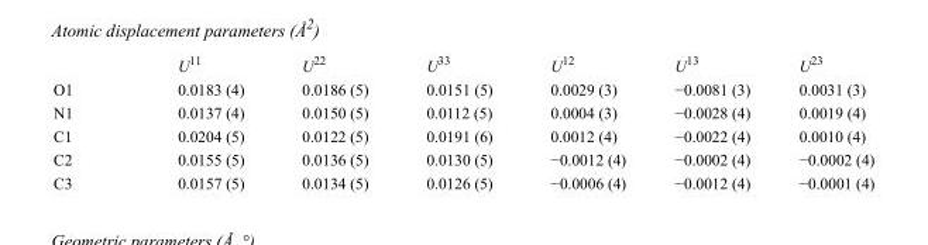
<table><thead><tr><td></td><td>U<sup>11</sup></td><td>U<sup>22</sup></td><td>U<sup>33</sup></td><td>U<sup>12</sup></td><td>U<sup>13</sup></td><td>U<sup>23</sup></td></tr></thead><tbody><tr><td>O1</td><td>0.0183 (4)</td><td>0.0186 (5)</td><td>0.0151 (5)</td><td>0.0029 (3)</td><td>−0.0081 (3)</td><td>0.0031 (3)</td></tr><tr><td>N1</td><td>0.0137 (4)</td><td>0.0150 (5)</td><td>0.0112 (5)</td><td>0.0004 (3)</td><td>−0.0028 (4)</td><td>0.0019 (4)</td></tr><tr><td>C1</td><td>0.0204 (5)</td><td>0.0122 (5)</td><td>0.0191 (6)</td><td>0.0012 (4)</td><td>−0.0022 (4)</td><td>0.0010 (4)</td></tr><tr><td>C2</td><td>0.0155 (5)</td><td>0.0136 (5)</td><td>0.0130 (5)</td><td>−0.0012 (4)</td><td>−0.0002 (4)</td><td>−0.0002 (4)</td></tr><tr><td>C3</td><td>0.0157 (5)</td><td>0.0134 (5)</td><td>0.0126 (5)</td><td>−0.0006 (4)</td><td>−0.0012 (4)</td><td>−0.0001 (4)</td></tr></tbody></table>